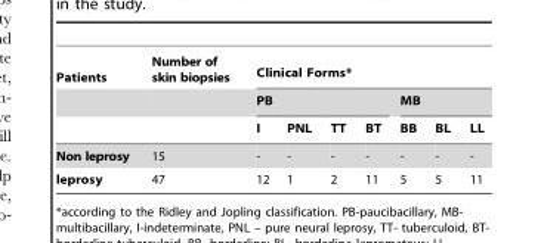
<table><thead><tr><td rowspan="3">Patients</td><td rowspan="3">Number of skin biopsies</td><td colspan="7">Clinical Forms*</td></tr><tr><td colspan="4">PB</td><td colspan="3">MB</td></tr><tr><td>I</td><td>PNL</td><td>TT</td><td>BT</td><td>BB</td><td>BL</td><td>LL</td></tr></thead><tbody><tr><td>Non leprosy</td><td>15</td><td>-</td><td>-</td><td>-</td><td>-</td><td>-</td><td>-</td><td>-</td></tr><tr><td>leprosy</td><td>47</td><td>12</td><td>1</td><td>2</td><td>11</td><td>5</td><td>5</td><td>11</td></tr></tbody></table>